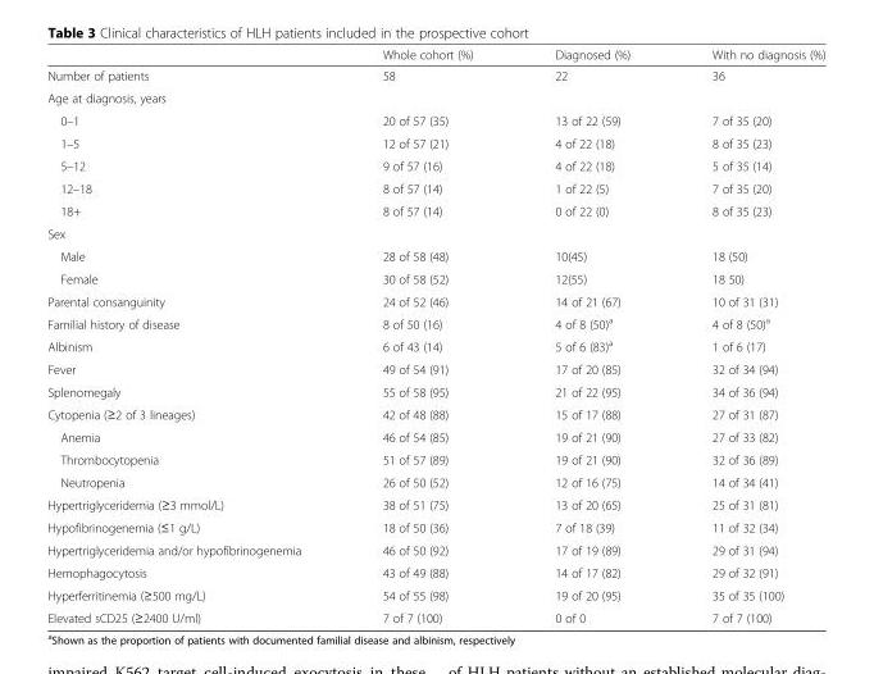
<table><thead><tr><td></td><td>Whole cohort (%)</td><td>Diagnosed (%)</td><td>With no diagnosis (%)</td></tr></thead><tbody><tr><td>Number of patients</td><td>58</td><td>22</td><td>36</td></tr><tr><td colspan="4">Age at diagnosis, years</td></tr><tr><td>0–1</td><td>20 of 57 (35)</td><td>13 of 22 (59)</td><td>7 of 35 (20)</td></tr><tr><td>1–5</td><td>12 of 57 (21)</td><td>4 of 22 (18)</td><td>8 of 35 (23)</td></tr><tr><td>5–12</td><td>9 of 57 (16)</td><td>4 of 22 (18)</td><td>5 of 35 (14)</td></tr><tr><td>12–18</td><td>8 of 57 (14)</td><td>1 of 22 (5)</td><td>7 of 35 (20)</td></tr><tr><td>18+</td><td>8 of 57 (14)</td><td>0 of 22 (0)</td><td>8 of 35 (23)</td></tr><tr><td colspan="4">Sex</td></tr><tr><td>Male</td><td>28 of 58 (48)</td><td>10(45)</td><td>18 (50)</td></tr><tr><td>Female</td><td>30 of 58 (52)</td><td>12(55)</td><td>18 50)</td></tr><tr><td>Parental consanguinity</td><td>24 of 52 (46)</td><td>14 of 21 (67)</td><td>10 of 31 (31)</td></tr><tr><td>Familial history of disease</td><td>8 of 50 (16)</td><td>4 of 8 (50)<sup>a</sup></td><td>4 of 8 (50)<sup>a</sup></td></tr><tr><td>Albinism</td><td>6 of 43 (14)</td><td>5 of 6 (83)<sup>a</sup></td><td>1 of 6 (17)</td></tr><tr><td>Fever</td><td>49 of 54 (91)</td><td>17 of 20 (85)</td><td>32 of 34 (94)</td></tr><tr><td>Splenomegaly</td><td>55 of 58 (95)</td><td>21 of 22 (95)</td><td>34 of 36 (94)</td></tr><tr><td>Cytopenia (≥2 of 3 lineages)</td><td>42 of 48 (88)</td><td>15 of 17 (88)</td><td>27 of 31 (87)</td></tr><tr><td>Anemia</td><td>46 of 54 (85)</td><td>19 of 21 (90)</td><td>27 of 33 (82)</td></tr><tr><td>Thrombocytopenia</td><td>51 of 57 (89)</td><td>19 of 21 (90)</td><td>32 of 36 (89)</td></tr><tr><td>Neutropenia</td><td>26 of 50 (52)</td><td>12 of 16 (75)</td><td>14 of 34 (41)</td></tr><tr><td>Hypertriglyceridemia (≥3 mmol/L)</td><td>38 of 51 (75)</td><td>13 of 20 (65)</td><td>25 of 31 (81)</td></tr><tr><td>Hypofibrinogenemia (≤1 g/L)</td><td>18 of 50 (36)</td><td>7 of 18 (39)</td><td>11 of 32 (34)</td></tr><tr><td>Hypertriglyceridemia and/or hypofibrinogenemia</td><td>46 of 50 (92)</td><td>17 of 19 (89)</td><td>29 of 31 (94)</td></tr><tr><td>Hemophagocytosis</td><td>43 of 49 (88)</td><td>14 of 17 (82)</td><td>29 of 32 (91)</td></tr><tr><td>Hyperferritinemia (≥500 mg/L)</td><td>54 of 55 (98)</td><td>19 of 20 (95)</td><td>35 of 35 (100)</td></tr><tr><td>Elevated sCD25 (≥2400 U/ml)</td><td>7 of 7 (100)</td><td>0 of 0</td><td>7 of 7 (100)</td></tr></tbody></table>